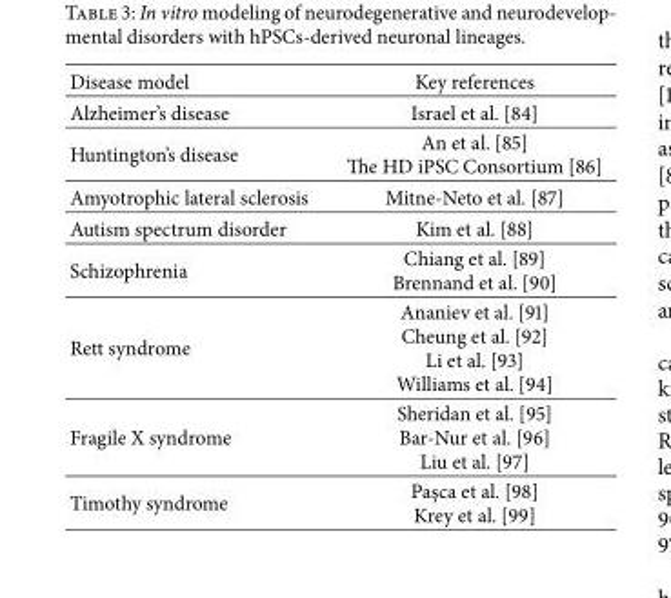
<table><thead><tr><td>Disease model</td><td>Key references</td></tr></thead><tbody><tr><td>Alzheimer’s disease</td><td>Israel et al. [84]</td></tr><tr><td>Huntington’s disease</td><td>An et al. [85] The HD iPSC Consortium [86]</td></tr><tr><td>Amyotrophic lateral sclerosis</td><td>Mitne-Neto et al. [87]</td></tr><tr><td>Autism spectrum disorder</td><td>Kim et al. [88]</td></tr><tr><td>Schizophrenia</td><td>Chiang et al. [89] Brennand et al. [90]</td></tr><tr><td>Rett syndrome</td><td>Ananiev et al. [91] Cheung et al. [92] Li et al. [93] Williams et al. [94]</td></tr><tr><td>Fragile X syndrome</td><td>Sheridan et al. [95] Bar-Nur et al. [96] Liu et al. [97]</td></tr><tr><td>Timothy syndrome</td><td>Pas¸ca et al. [98] Krey et al. [99]</td></tr></tbody></table>